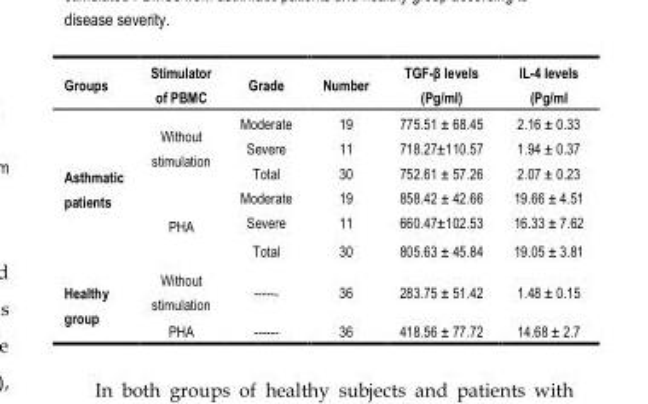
<table><thead><tr><td>Groups</td><td>Stimulator of PBMC</td><td>Grade</td><td>Number</td><td>TGF-β levels (Pg/ml)</td><td>IL-4 levels (Pg/ml</td></tr></thead><tbody><tr><td rowspan="6">Asthmatic patients</td><td rowspan="3">Without stimulation</td><td>Moderate</td><td>19</td><td>775.51 ± 68.45</td><td>2.16 ± 0.33</td></tr><tr><td>Severe</td><td>11</td><td>718.27±110.57</td><td>1.94 ± 0.37</td></tr><tr><td>Total</td><td>30</td><td>752.61 ± 57.26</td><td>2.07 ± 0.23</td></tr><tr><td rowspan="3">PHA</td><td>Moderate</td><td>19</td><td>858.42 ± 42.66</td><td>19.66 ± 4.51</td></tr><tr><td>Severe</td><td>11</td><td>660.47±102.53</td><td>16.33 ± 7.62</td></tr><tr><td>Total</td><td>30</td><td>805.63 ± 45.84</td><td>19.05 ± 3.81</td></tr><tr><td rowspan="2">Healthy group</td><td>Without stimulation</td><td>------</td><td>36</td><td>283.75 ± 51.42</td><td>1.48 ± 0.15</td></tr><tr><td>PHA</td><td>------</td><td>36</td><td>418.56 ± 77.72</td><td>14.68 ± 2.7</td></tr></tbody></table>